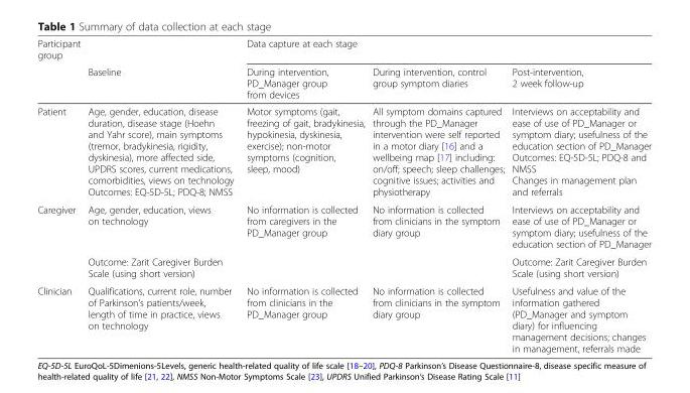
<table><thead><tr><td rowspan="2">Participant group</td><td rowspan="2">Baseline</td><td colspan="3">Data capture at each stage</td></tr><tr><td>During intervention, PD_Manager group from devices</td><td>During intervention, control group symptom diaries</td><td>Post-intervention, 2 week follow-up</td></tr></thead><tbody><tr><td>Patient</td><td>Age, gender, education, disease duration, disease stage (Hoehn and Yahr score), main symptoms (tremor, bradykinesia, rigidity, dyskinesia), more affected side, UPDRS scores, current medications, comorbidities, views on technology Outcomes: EQ-5D-5L; PDQ-8; NMSS</td><td>Motor symptoms (gait, freezing of gait, bradykinesia, hypokinesia, dyskinesia, exercise); non-motor symptoms (cognition, sleep, mood)</td><td>All symptom domains captured through the PD_Manager intervention were self reported in a motor diary [16] and a wellbeing map [17] including: on/off; speech; sleep challenges; cognitive issues; activities and physiotherapy</td><td>Interviews on acceptability and ease of use of PD_Manager or symptom diary; usefulness of the education section of PD_Manager Outcomes: EQ-5D-5L; PDQ-8 and NMSS Changes in management plan and referrals</td></tr><tr><td rowspan="2">Caregiver</td><td>Age, gender, education, views on technology</td><td>No information is collected from caregivers in the PD_Manager group</td><td>No information is collected from clinicians in the symptom diary group</td><td>Interviews on acceptability and ease of use of PD_Manager or symptom diary; usefulness of the education section of PD_Manager</td></tr><tr><td>Outcome: Zarit Caregiver Burden Scale (using short version)</td><td></td><td></td><td>Outcome: Zarit Caregiver Burden Scale (using short version)</td></tr><tr><td>Clinician</td><td>Qualifications, current role, number of Parkinson’s patients/week, length of time in practice, views on technology</td><td>No information is collected from clinicians in the PD_Manager group</td><td>No information is collected from clinicians in the symptom diary group</td><td>Usefulness and value of the information gathered (PD_Manager and symptom diary) for influencing management decisions; changes in management, referrals made</td></tr></tbody></table>